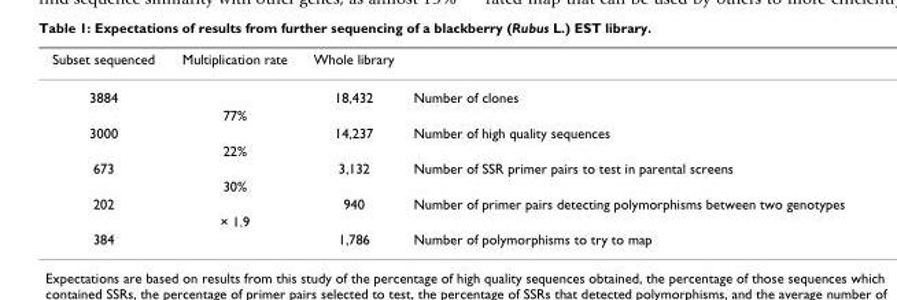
<table><thead><tr><td>Subset sequenced</td><td>Multiplication rate</td><td>Whole library</td><td></td></tr></thead><tbody><tr><td rowspan="2">3884</td><td></td><td>18,432</td><td>Number of clones</td></tr><tr><td>77%</td><td></td><td></td></tr><tr><td rowspan="2">3000</td><td></td><td>14,237</td><td>Number of high quality sequences</td></tr><tr><td>22%</td><td></td><td></td></tr><tr><td rowspan="2">673</td><td></td><td>3,132</td><td>Number of SSR primer pairs to test in parental screens</td></tr><tr><td>30%</td><td></td><td></td></tr><tr><td rowspan="2">202</td><td></td><td>940</td><td>Number of primer pairs detecting polymorphisms between two genotypes</td></tr><tr><td>× 1.9</td><td></td><td></td></tr><tr><td>384</td><td></td><td>1,786</td><td>Number of polymorphisms to try to map</td></tr></tbody></table>